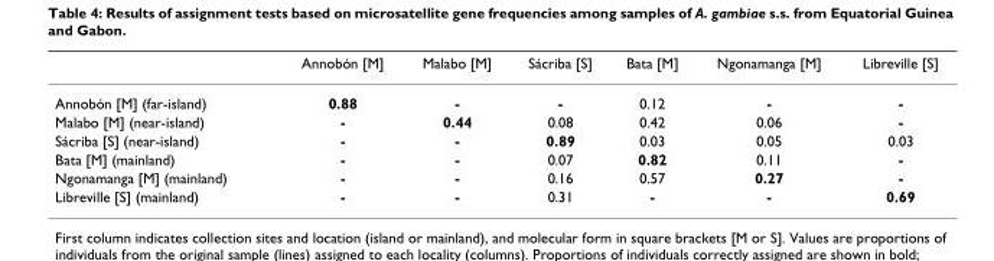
<table><thead><tr><td></td><td>Annobón [M]</td><td>Malabo [M]</td><td>Sácriba [S]</td><td>Bata [M]</td><td>Ngonamanga [M]</td><td>Libreville [S]</td></tr></thead><tbody><tr><td>Annobón [M] (far-island)</td><td>0.88</td><td>-</td><td>-</td><td>0.12</td><td>-</td><td>-</td></tr><tr><td>Malabo [M] (near-island)</td><td>-</td><td>0.44</td><td>0.08</td><td>0.42</td><td>0.06</td><td>-</td></tr><tr><td>Sácriba [S] (near-island)</td><td>-</td><td>-</td><td>0.89</td><td>0.03</td><td>0.05</td><td>0.03</td></tr><tr><td>Bata [M] (mainland)</td><td>-</td><td>-</td><td>0.07</td><td>0.82</td><td>0.11</td><td>-</td></tr><tr><td>Ngonamanga [M] (mainland)</td><td>-</td><td>-</td><td>0.16</td><td>0.57</td><td>0.27</td><td>-</td></tr><tr><td>Libreville [S] (mainland)</td><td>-</td><td>-</td><td>0.31</td><td>-</td><td>-</td><td>0.69</td></tr></tbody></table>